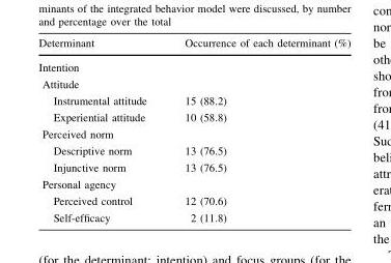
<table><thead><tr><td>Determinant</td><td>Occurrence of each determinant (%)</td></tr></thead><tbody><tr><td colspan="2">Intention</td></tr><tr><td colspan="2">Attitude</td></tr><tr><td>Instrumental attitude</td><td>15 (88.2)</td></tr><tr><td>Experiential attitude</td><td>10 (58.8)</td></tr><tr><td colspan="2">Perceived norm</td></tr><tr><td>Descriptive norm</td><td>13 (76.5)</td></tr><tr><td>Injunctive norm</td><td>13 (76.5)</td></tr><tr><td colspan="2">Personal agency</td></tr><tr><td>Perceived control</td><td>12 (70.6)</td></tr><tr><td>Self-efficacy</td><td>2 (11.8)</td></tr></tbody></table>